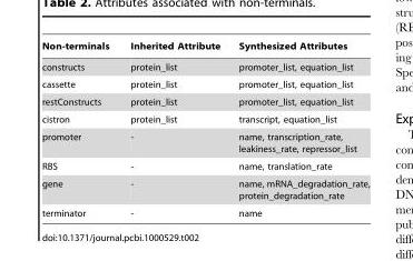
<table><thead><tr><td>Non-terminals</td><td>Inherited Attribute</td><td>Synthesized Attributes</td></tr></thead><tbody><tr><td>constructs</td><td>protein_list</td><td>promoter_list, equation_list</td></tr><tr><td>cassette</td><td>protein_list</td><td>promoter_list, equation_list</td></tr><tr><td>restConstructs</td><td>protein_list</td><td>promoter_list, equation_list</td></tr><tr><td>cistron</td><td>protein_list</td><td>transcript, equation_list</td></tr><tr><td>promoter</td><td>-</td><td>name, transcription_rate, leakiness_rate, repressor_list</td></tr><tr><td>RBS</td><td>-</td><td>name, translation_rate</td></tr><tr><td>gene</td><td>-</td><td>name, mRNA_degradation_rate, protein_degradation_rate</td></tr><tr><td>terminator</td><td>-</td><td>name</td></tr></tbody></table>